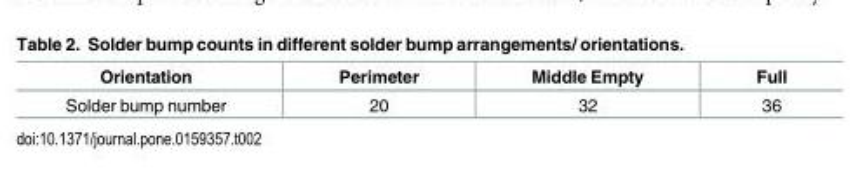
<table><thead><tr><td>Orientation</td><td>Perimeter</td><td>Middle Empty</td><td>Full</td></tr></thead><tbody><tr><td>Solder bump number</td><td>20</td><td>32</td><td>36</td></tr></tbody></table>